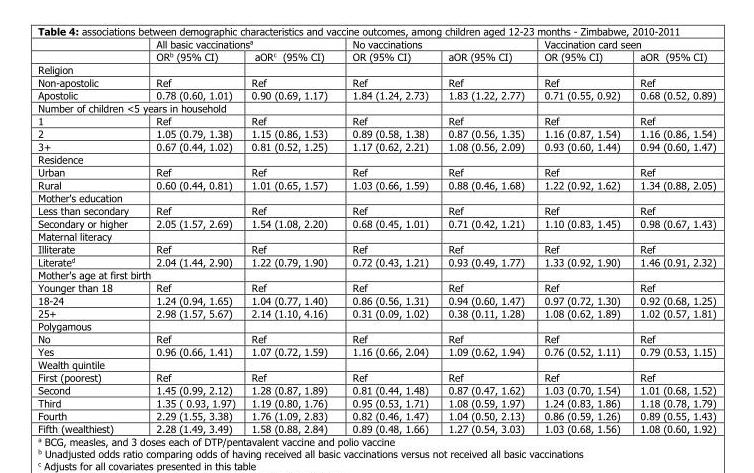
<table><thead><tr><td rowspan="2"></td><td colspan="2">All basic vaccinations<sup>a</sup></td><td colspan="2">No vaccinations</td><td colspan="2">Vaccination card seen</td></tr><tr><td>OR<sup>b</sup> (95% CI)</td><td>aOR<sup>c</sup> (95% CI)</td><td>OR (95% CI)</td><td>aOR (95% CI)</td><td>OR (95% CI)</td><td>aOR (95% CI)</td></tr></thead><tbody><tr><td colspan="7">Religion</td></tr><tr><td>Non-apostolic</td><td>Ref</td><td>Ref</td><td>Ref</td><td>Ref</td><td>Ref</td><td>Ref</td></tr><tr><td>Apostolic</td><td>0.78 (0.60, 1.01)</td><td>0.90 (0.69, 1.17)</td><td>1.84 (1.24, 2.73)</td><td>1.83 (1.22, 2.77)</td><td>0.71 (0.55, 0.92)</td><td>0.68 (0.52, 0.89)</td></tr><tr><td colspan="7">Number of children &lt;5 years in household</td></tr><tr><td>1</td><td>Ref</td><td>Ref</td><td>Ref</td><td>Ref</td><td>Ref</td><td>Ref</td></tr><tr><td>2</td><td>1.05 (0.79, 1.38)</td><td>1.15 (0.86, 1.53)</td><td>0.89 (0.58, 1.38)</td><td>0.87 (0.56, 1.35)</td><td>1.16 (0.87, 1.54)</td><td>1.16 (0.86, 1.54)</td></tr><tr><td>3+</td><td>0.67 (0.44, 1.02)</td><td>0.81 (0.52, 1.25)</td><td>1.17 (0.62, 2.21)</td><td>1.08 (0.56, 2.09)</td><td>0.93 (0.60, 1.44)</td><td>0.94 (0.60, 1.47)</td></tr><tr><td colspan="7">Residence</td></tr><tr><td>Urban</td><td>Ref</td><td>Ref</td><td>Ref</td><td>Ref</td><td>Ref</td><td>Ref</td></tr><tr><td>Rural</td><td>0.60 (0.44, 0.81)</td><td>1.01 (0.65, 1.57)</td><td>1.03 (0.66, 1.59)</td><td>0.88 (0.46, 1.68)</td><td>1.22 (0.92, 1.62)</td><td>1.34 (0.88, 2.05)</td></tr><tr><td colspan="7">Mother&#x27;s education</td></tr><tr><td>Less than secondary</td><td>Ref</td><td>Ref</td><td>Ref</td><td>Ref</td><td>Ref</td><td>Ref</td></tr><tr><td>Secondary or higher</td><td>2.05 (1.57, 2.69)</td><td>1.54 (1.08, 2.20)</td><td>0.68 (0.45, 1.01)</td><td>0.71 (0.42, 1.21)</td><td>1.10 (0.83, 1.45)</td><td>0.98 (0.67, 1.43)</td></tr><tr><td colspan="7">Maternal literacy</td></tr><tr><td>Illiterate</td><td>Ref</td><td>Ref</td><td>Ref</td><td>Ref</td><td>Ref</td><td>Ref</td></tr><tr><td>Literate<sup>d</sup></td><td>2.04 (1.44, 2.90)</td><td>1.22 (0.79, 1.90)</td><td>0.72 (0.43, 1.21)</td><td>0.93 (0.49, 1.77)</td><td>1.33 (0.92, 1.90)</td><td>1.46 (0.91, 2.32)</td></tr><tr><td colspan="7">Mother&#x27;s age at first birth</td></tr><tr><td>Younger than 18</td><td>Ref</td><td>Ref</td><td>Ref</td><td>Ref</td><td>Ref</td><td>Ref</td></tr><tr><td>18-24</td><td>1.24 (0.94, 1.65)</td><td>1.04 (0.77, 1.40)</td><td>0.86 (0.56, 1.31)</td><td>0.94 (0.60, 1.47)</td><td>0.97 (0.72, 1.30)</td><td>0.92 (0.68, 1.25)</td></tr><tr><td>25+</td><td>2.98 (1.57, 5.67)</td><td>2.14 (1.10, 4.16)</td><td>0.31 (0.09, 1.02)</td><td>0.38 (0.11, 1.28)</td><td>1.08 (0.62, 1.89)</td><td>1.02 (0.57, 1.81)</td></tr><tr><td colspan="7">Polygamous</td></tr><tr><td>No</td><td>Ref</td><td>Ref</td><td>Ref</td><td>Ref</td><td>Ref</td><td>Ref</td></tr><tr><td>Yes</td><td>0.96 (0.66, 1.41)</td><td>1.07 (0.72, 1.59)</td><td>1.16 (0.66, 2.04)</td><td>1.09 (0.62, 1.94)</td><td>0.76 (0.52, 1.11)</td><td>0.79 (0.53, 1.15)</td></tr><tr><td colspan="7">Wealth quintile</td></tr><tr><td>First (poorest)</td><td>Ref</td><td>Ref</td><td>Ref</td><td>Ref</td><td>Ref</td><td>Ref</td></tr><tr><td>Second</td><td>1.45 (0.99, 2.12)</td><td>1.28 (0.87, 1.89)</td><td>0.81 (0.44, 1.48)</td><td>0.87 (0.47, 1.62)</td><td>1.03 (0.70, 1.54)</td><td>1.01 (0.68, 1.52)</td></tr><tr><td>Third</td><td>1.35 ( 0.93, 1.97)</td><td>1.19 (0.80, 1.76)</td><td>0.95 (0.53, 1.71)</td><td>1.08 (0.59, 1.97)</td><td>1.24 (0.83, 1.86)</td><td>1.18 (0.78, 1.79)</td></tr><tr><td>Fourth</td><td>2.29 (1.55, 3.38)</td><td>1.76 (1.09, 2.83)</td><td>0.82 (0.46, 1.47)</td><td>1.04 (0.50, 2.13)</td><td>0.86 (0.59, 1.26)</td><td>0.89 (0.55, 1.43)</td></tr><tr><td>Fifth (wealthiest)</td><td>2.28 (1.49, 3.49)</td><td>1.58 (0.88, 2.84)</td><td>0.89 (0.48, 1.66)</td><td>1.27 (0.54, 3.03)</td><td>1.03 (0.68, 1.56)</td><td>1.08 (0.60, 1.92)</td></tr></tbody></table>